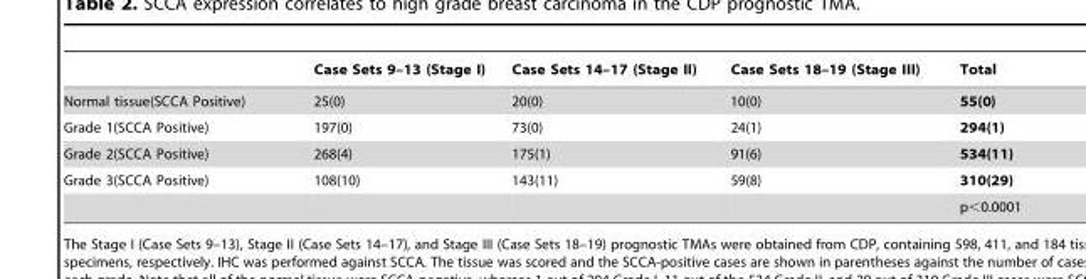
<table><thead><tr><td></td><td>Case Sets 9–13 (Stage I)</td><td>Case Sets 14–17 (Stage II)</td><td>Case Sets 18–19 (Stage III)</td><td>Total</td></tr></thead><tbody><tr><td>Normal tissue(SCCA Positive)</td><td>25(0)</td><td>20(0)</td><td>10(0)</td><td>55(0)</td></tr><tr><td>Grade 1(SCCA Positive)</td><td>197(0)</td><td>73(0)</td><td>24(1)</td><td>294(1)</td></tr><tr><td>Grade 2(SCCA Positive)</td><td>268(4)</td><td>175(1)</td><td>91(6)</td><td>534(11)</td></tr><tr><td rowspan="2">Grade 3(SCCA Positive)</td><td>108(10)</td><td>143(11)</td><td>59(8)</td><td>310(29)</td></tr><tr><td></td><td></td><td></td><td>p&lt;0.0001</td></tr></tbody></table>